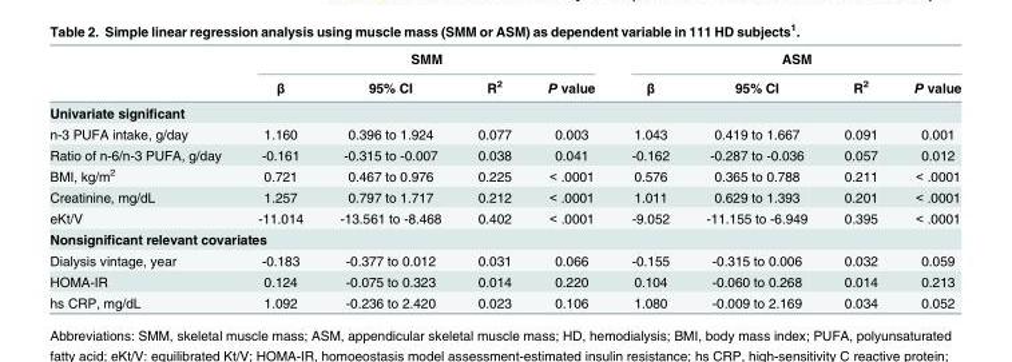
<table><thead><tr><td rowspan="2"></td><td colspan="4">SMM</td><td colspan="4">ASM</td></tr><tr><td>β</td><td>95% CI</td><td>R<sup>2</sup></td><td>P value</td><td>β</td><td>95% CI</td><td>R<sup>2</sup></td><td>P value</td></tr></thead><tbody><tr><td colspan="9">Univariate significant</td></tr><tr><td>n-3 PUFA intake, g/day</td><td>1.160</td><td>0.396 to 1.924</td><td>0.077</td><td>0.003</td><td>1.043</td><td>0.419 to 1.667</td><td>0.091</td><td>0.001</td></tr><tr><td>Ratio of n-6/n-3 PUFA, g/day</td><td>-0.161</td><td>-0.315 to -0.007</td><td>0.038</td><td>0.041</td><td>-0.162</td><td>-0.287 to -0.036</td><td>0.057</td><td>0.012</td></tr><tr><td>BMI, kg/m<sup>2</sup></td><td>0.721</td><td>0.467 to 0.976</td><td>0.225</td><td>&lt; .0001</td><td>0.576</td><td>0.365 to 0.788</td><td>0.211</td><td>&lt; .0001</td></tr><tr><td>Creatinine, mg/dL</td><td>1.257</td><td>0.797 to 1.717</td><td>0.212</td><td>&lt; .0001</td><td>1.011</td><td>0.629 to 1.393</td><td>0.201</td><td>&lt; .0001</td></tr><tr><td>eKt/V</td><td>-11.014</td><td>-13.561 to -8.468</td><td>0.402</td><td>&lt; .0001</td><td>-9.052</td><td>-11.155 to -6.949</td><td>0.395</td><td>&lt; .0001</td></tr><tr><td colspan="9">Nonsignificant relevant covariates</td></tr><tr><td>Dialysis vintage, year</td><td>-0.183</td><td>-0.377 to 0.012</td><td>0.031</td><td>0.066</td><td>-0.155</td><td>-0.315 to 0.006</td><td>0.032</td><td>0.059</td></tr><tr><td>HOMA-IR</td><td>0.124</td><td>-0.075 to 0.323</td><td>0.014</td><td>0.220</td><td>0.104</td><td>-0.060 to 0.268</td><td>0.014</td><td>0.213</td></tr><tr><td>hs CRP, mg/dL</td><td>1.092</td><td>-0.236 to 2.420</td><td>0.023</td><td>0.106</td><td>1.080</td><td>-0.009 to 2.169</td><td>0.034</td><td>0.052</td></tr></tbody></table>